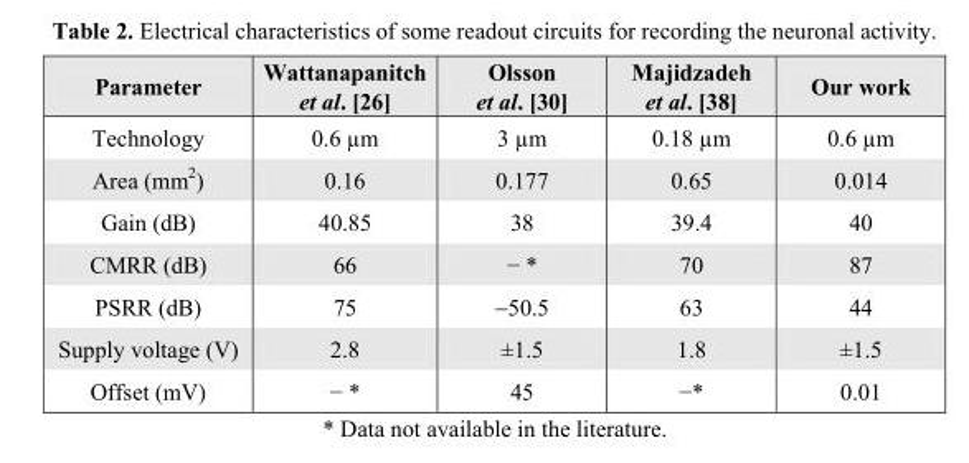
<table><thead><tr><td>Parameter</td><td>Wattanapanitch et al. [26]</td><td>Olsson et al. [30]</td><td>Majidzadeh et al. [38]</td><td>Our work</td></tr></thead><tbody><tr><td>Technology</td><td>0.6 µm</td><td>3 µm</td><td>0.18 µm</td><td>0.6 µm</td></tr><tr><td>Area (mm<sup>2</sup>)</td><td>0.16</td><td>0.177</td><td>0.65</td><td>0.014</td></tr><tr><td>Gain (dB)</td><td>40.85</td><td>38</td><td>39.4</td><td>40</td></tr><tr><td>CMRR (dB)</td><td>66</td><td>− *</td><td>70</td><td>87</td></tr><tr><td>PSRR (dB)</td><td>75</td><td>−50.5</td><td>63</td><td>44</td></tr><tr><td>Supply voltage (V)</td><td>2.8</td><td>±1.5</td><td>1.8</td><td>±1.5</td></tr><tr><td>Offset (mV)</td><td>− *</td><td>45</td><td>−*</td><td>0.01</td></tr></tbody></table>